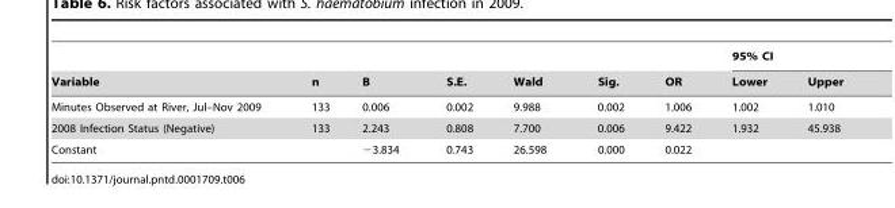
<table><thead><tr><td rowspan="2">Variable</td><td rowspan="2">n</td><td rowspan="2">B</td><td rowspan="2">S.E.</td><td rowspan="2">Wald</td><td rowspan="2">Sig.</td><td rowspan="2">OR</td><td colspan="2">95% CI</td></tr><tr><td>Lower</td><td>Upper</td></tr></thead><tbody><tr><td>Minutes Observed at River, Jul–Nov 2009</td><td>133</td><td>0.006</td><td>0.002</td><td>9.988</td><td>0.002</td><td>1.006</td><td>1.002</td><td>1.010</td></tr><tr><td>2008 Infection Status (Negative)</td><td>133</td><td>2.243</td><td>0.808</td><td>7.700</td><td>0.006</td><td>9.422</td><td>1.932</td><td>45.938</td></tr><tr><td>Constant</td><td></td><td>−3.834</td><td>0.743</td><td>26.598</td><td>0.000</td><td>0.022</td><td></td><td></td></tr></tbody></table>